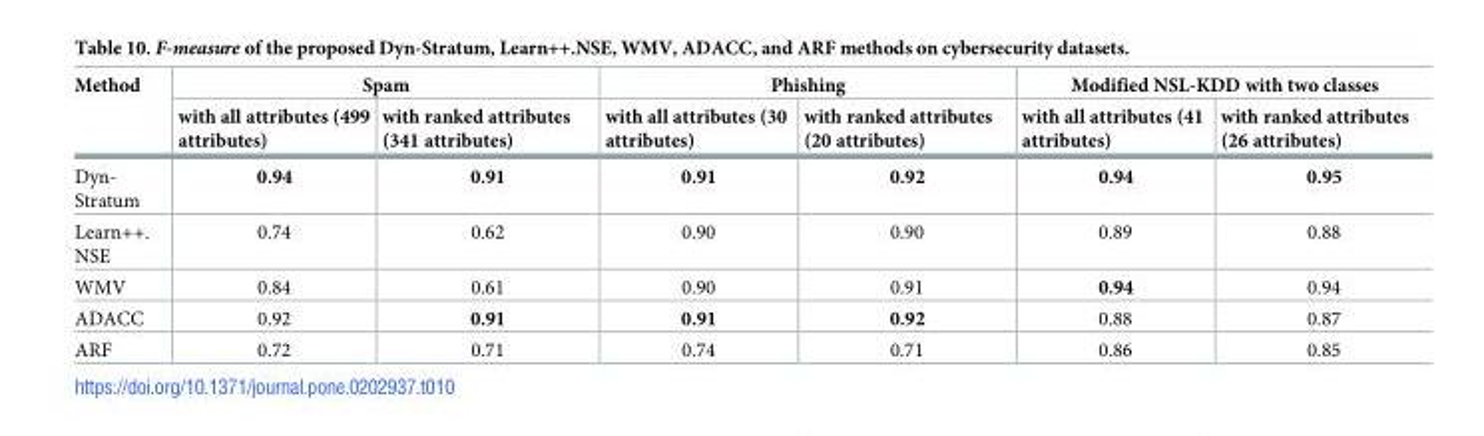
<table><thead><tr><td rowspan="2">Method</td><td colspan="2">Spam</td><td colspan="2">Phishing</td><td colspan="2">Modified NSL-KDD with two classes</td></tr><tr><td>with all attributes (499 attributes)</td><td>with ranked attributes (341 attributes)</td><td>with all attributes (30 attributes)</td><td>with ranked attributes (20 attributes)</td><td>with all attributes (41 attributes)</td><td>with ranked attributes (26 attributes)</td></tr></thead><tbody><tr><td>Dyn- Stratum</td><td>0.94</td><td>0.91</td><td>0.91</td><td>0.92</td><td>0.94</td><td>0.95</td></tr><tr><td>Learn++. NSE</td><td>0.74</td><td>0.62</td><td>0.90</td><td>0.90</td><td>0.89</td><td>0.88</td></tr><tr><td>WMV</td><td>0.84</td><td>0.61</td><td>0.90</td><td>0.91</td><td>0.94</td><td>0.94</td></tr><tr><td>ADACC</td><td>0.92</td><td>0.91</td><td>0.91</td><td>0.92</td><td>0.88</td><td>0.87</td></tr><tr><td>ARF</td><td>0.72</td><td>0.71</td><td>0.74</td><td>0.71</td><td>0.86</td><td>0.85</td></tr></tbody></table>